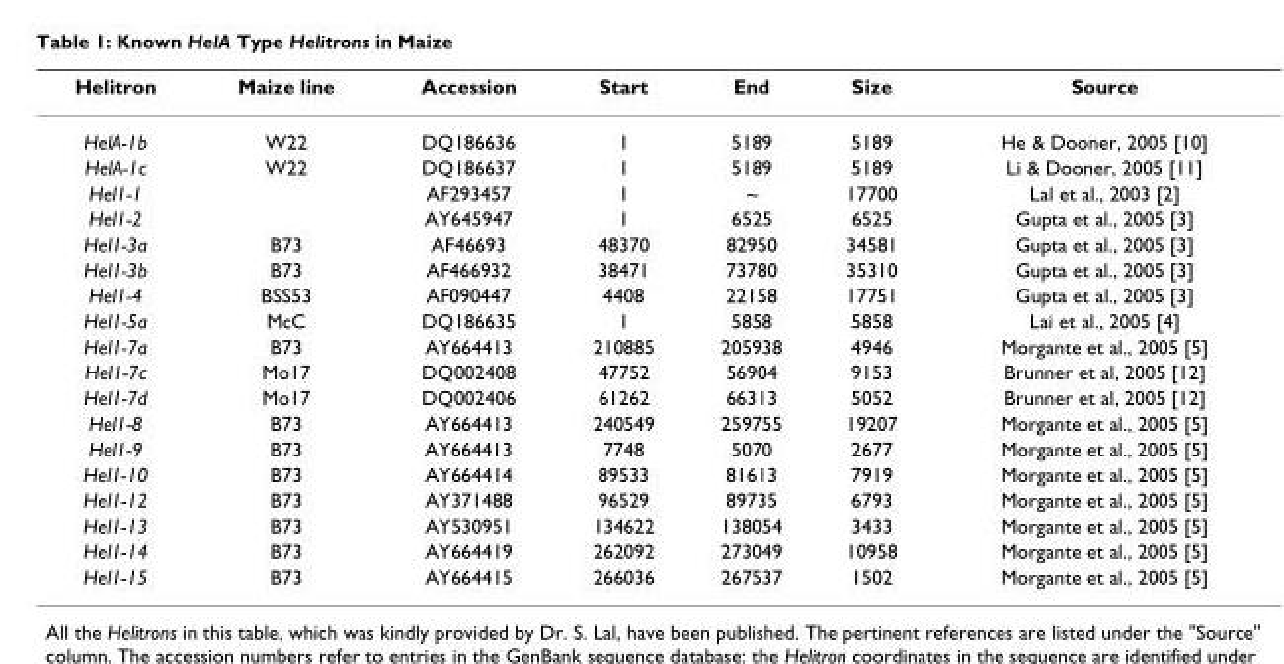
<table><thead><tr><td>Helitron</td><td>Maize line</td><td>Accession</td><td>Start</td><td>End</td><td>Size</td><td>Source</td></tr></thead><tbody><tr><td>HelA-1b</td><td>W22</td><td>DQ186636</td><td>1</td><td>5189</td><td>5189</td><td>He &amp; Dooner, 2005 [10]</td></tr><tr><td>HelA-1c</td><td>W22</td><td>DQ186637</td><td>1</td><td>5189</td><td>5189</td><td>Li &amp; Dooner, 2005 [11]</td></tr><tr><td>Hel1-1</td><td></td><td>AF293457</td><td>1</td><td>~</td><td>17700</td><td>Lal et al., 2003 [2]</td></tr><tr><td>Hel1-2</td><td></td><td>AY645947</td><td>1</td><td>6525</td><td>6525</td><td>Gupta et al., 2005 [3]</td></tr><tr><td>Hel1-3a</td><td>B73</td><td>AF46693</td><td>48370</td><td>82950</td><td>34581</td><td>Gupta et al., 2005 [3]</td></tr><tr><td>Hel1-3b</td><td>B73</td><td>AF466932</td><td>38471</td><td>73780</td><td>35310</td><td>Gupta et al., 2005 [3]</td></tr><tr><td>Hel1-4</td><td>BSS53</td><td>AF090447</td><td>4408</td><td>22158</td><td>17751</td><td>Gupta et al., 2005 [3]</td></tr><tr><td>Hel1-5a</td><td>McC</td><td>DQ186635</td><td>1</td><td>5858</td><td>5858</td><td>Lai et al., 2005 [4]</td></tr><tr><td>Hel1-7a</td><td>B73</td><td>AY664413</td><td>210885</td><td>205938</td><td>4946</td><td>Morgante et al., 2005 [5]</td></tr><tr><td>Hel1-7c</td><td>Mo17</td><td>DQ002408</td><td>47752</td><td>56904</td><td>9153</td><td>Brunner et al, 2005 [12]</td></tr><tr><td>Hel1-7d</td><td>Mo17</td><td>DQ002406</td><td>61262</td><td>66313</td><td>5052</td><td>Brunner et al, 2005 [12]</td></tr><tr><td>Hel1-8</td><td>B73</td><td>AY664413</td><td>240549</td><td>259755</td><td>19207</td><td>Morgante et al., 2005 [5]</td></tr><tr><td>Hel1-9</td><td>B73</td><td>AY664413</td><td>7748</td><td>5070</td><td>2677</td><td>Morgante et al., 2005 [5]</td></tr><tr><td>Hel1-10</td><td>B73</td><td>AY664414</td><td>89533</td><td>81613</td><td>7919</td><td>Morgante et al., 2005 [5]</td></tr><tr><td>Hel1-12</td><td>B73</td><td>AY371488</td><td>96529</td><td>89735</td><td>6793</td><td>Morgante et al., 2005 [5]</td></tr><tr><td>Hel1-13</td><td>B73</td><td>AY530951</td><td>134622</td><td>138054</td><td>3433</td><td>Morgante et al., 2005 [5]</td></tr><tr><td>Hel1-14</td><td>B73</td><td>AY664419</td><td>262092</td><td>273049</td><td>10958</td><td>Morgante et al., 2005 [5]</td></tr><tr><td>Hel1-15</td><td>B73</td><td>AY664415</td><td>266036</td><td>267537</td><td>1502</td><td>Morgante et al., 2005 [5]</td></tr></tbody></table>